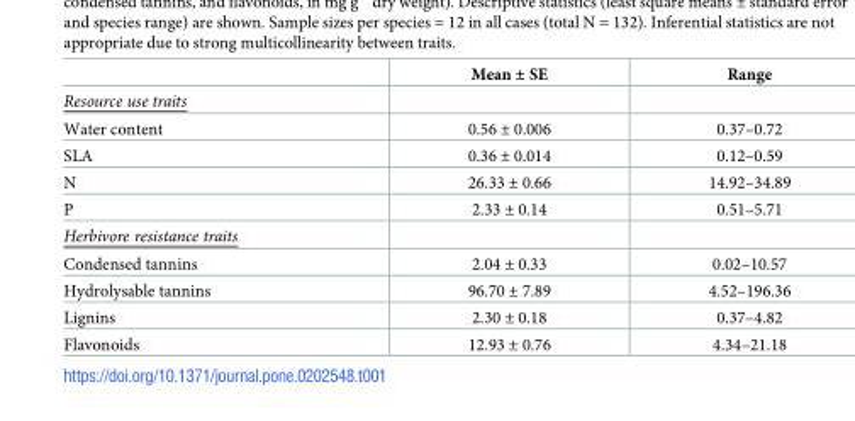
<table><thead><tr><td></td><td>Mean ± SE</td><td>Range</td></tr></thead><tbody><tr><td colspan="3">Resource use traits</td></tr><tr><td>Water content</td><td>0.56 ± 0.006</td><td>0.37–0.72</td></tr><tr><td>SLA</td><td>0.36 ± 0.014</td><td>0.12–0.59</td></tr><tr><td>N</td><td>26.33 ± 0.66</td><td>14.92–34.89</td></tr><tr><td>P</td><td>2.33 ± 0.14</td><td>0.51–5.71</td></tr><tr><td colspan="3">Herbivore resistance traits</td></tr><tr><td>Condensed tannins</td><td>2.04 ± 0.33</td><td>0.02–10.57</td></tr><tr><td>Hydrolysable tannins</td><td>96.70 ± 7.89</td><td>4.52–196.36</td></tr><tr><td>Lignins</td><td>2.30 ± 0.18</td><td>0.37–4.82</td></tr><tr><td>Flavonoids</td><td>12.93 ± 0.76</td><td>4.34–21.18</td></tr></tbody></table>